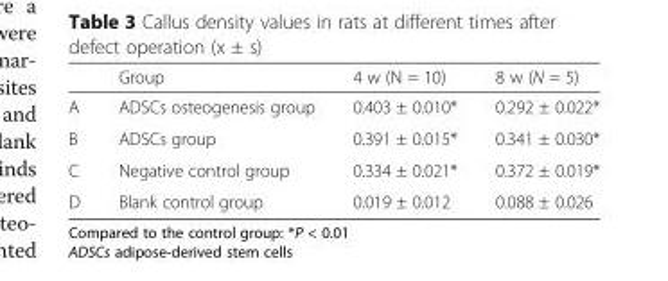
<table><thead><tr><td></td><td>Group</td><td>4 w (N = 10)</td><td>8 w (N = 5)</td></tr></thead><tbody><tr><td>A</td><td>ADSCs osteogenesis group</td><td>0.403 ± 0.010*</td><td>0.292 ± 0.022*</td></tr><tr><td>B</td><td>ADSCs group</td><td>0.391 ± 0.015*</td><td>0.341 ± 0.030*</td></tr><tr><td>C</td><td>Negative control group</td><td>0.334 ± 0.021*</td><td>0.372 ± 0.019*</td></tr><tr><td>D</td><td>Blank control group</td><td>0.019 ± 0.012</td><td>0.088 ± 0.026</td></tr></tbody></table>